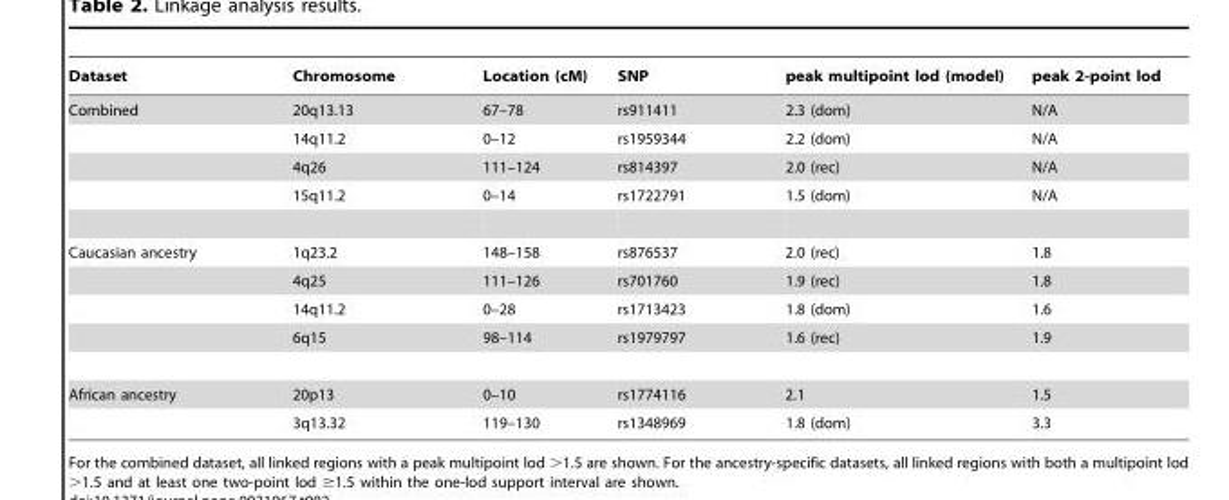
<table><thead><tr><td>Dataset</td><td>Chromosome</td><td>Location (cM)</td><td>SNP</td><td>peak multipoint lod (model)</td><td>peak 2-point lod</td></tr></thead><tbody><tr><td rowspan="4">Combined</td><td>20q13.13</td><td>67–78</td><td>rs911411</td><td>2.3 (dom)</td><td>N/A</td></tr><tr><td>14q11.2</td><td>0–12</td><td>rs1959344</td><td>2.2 (dom)</td><td>N/A</td></tr><tr><td>4q26</td><td>111–124</td><td>rs814397</td><td>2.0 (rec)</td><td>N/A</td></tr><tr><td>15q11.2</td><td>0–14</td><td>rs1722791</td><td>1.5 (dom)</td><td>N/A</td></tr><tr><td rowspan="4">Caucasian ancestry</td><td>1q23.2</td><td>148–158</td><td>rs876537</td><td>2.0 (rec)</td><td>1.8</td></tr><tr><td>4q25</td><td>111–126</td><td>rs701760</td><td>1.9 (rec)</td><td>1.8</td></tr><tr><td>14q11.2</td><td>0–28</td><td>rs1713423</td><td>1.8 (dom)</td><td>1.6</td></tr><tr><td>6q15</td><td>98–114</td><td>rs1979797</td><td>1.6 (rec)</td><td>1.9</td></tr><tr><td rowspan="2">African ancestry</td><td>20p13</td><td>0–10</td><td>rs1774116</td><td>2.1</td><td>1.5</td></tr><tr><td>3q13.32</td><td>119–130</td><td>rs1348969</td><td>1.8 (dom)</td><td>3.3</td></tr></tbody></table>